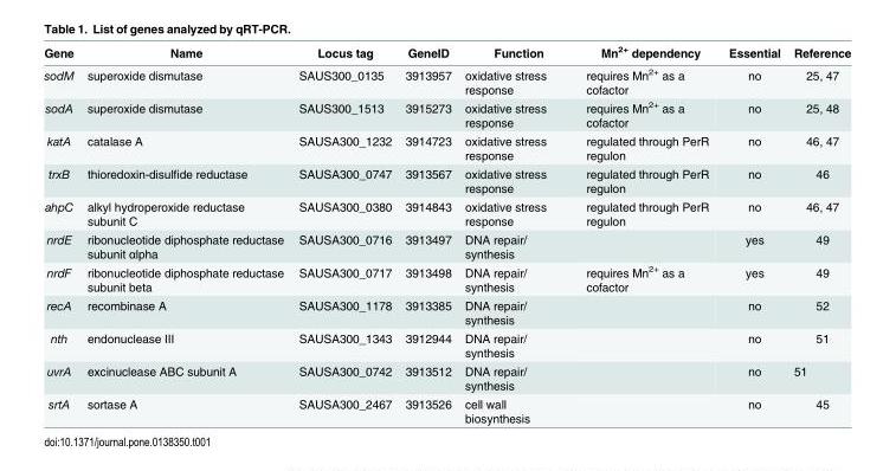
<table><thead><tr><td>Gene</td><td>Name</td><td>Locus tag</td><td>GeneID</td><td>Function</td><td>Mn<sup>2+</sup> dependency</td><td>Essential</td><td>Reference</td></tr></thead><tbody><tr><td>sodM</td><td>superoxide dismutase</td><td>SAUS300_0135</td><td>3913957</td><td>oxidative stress response</td><td>requires Mn<sup>2+</sup> as a cofactor</td><td>no</td><td>25, 47</td></tr><tr><td>sodA</td><td>superoxide dismutase</td><td>SAUS300_1513</td><td>3915273</td><td>oxidative stress response</td><td>requires Mn<sup>2+</sup> as a cofactor</td><td>no</td><td>25, 48</td></tr><tr><td>katA</td><td>catalase A</td><td>SAUSA300_1232</td><td>3914723</td><td>oxidative stress response</td><td>regulated through PerR regulon</td><td>no</td><td>46, 47</td></tr><tr><td>trxB</td><td>thioredoxin-disulfide reductase</td><td>SAUSA300_0747</td><td>3913567</td><td>oxidative stress response</td><td>regulated through PerR regulon</td><td>no</td><td>46</td></tr><tr><td>ahpC</td><td>alkyl hydroperoxide reductase subunit C</td><td>SAUSA300_0380</td><td>3914843</td><td>oxidative stress response</td><td>regulated through PerR regulon</td><td>no</td><td>46, 47</td></tr><tr><td>nrdE</td><td>ribonucleotide diphosphate reductase subunit αlpha</td><td>SAUSA300_0716</td><td>3913497</td><td>DNA repair/ synthesis</td><td></td><td>yes</td><td>49</td></tr><tr><td>nrdF</td><td>ribonucleotide diphosphate reductase subunit beta</td><td>SAUSA300_0717</td><td>3913498</td><td>DNA repair/ synthesis</td><td>requires Mn<sup>2+</sup> as a cofactor</td><td>yes</td><td>49</td></tr><tr><td>recA</td><td>recombinase A</td><td>SAUSA300_1178</td><td>3913385</td><td>DNA repair/ synthesis</td><td></td><td>no</td><td>52</td></tr><tr><td>nth</td><td>endonuclease III</td><td>SAUSA300_1343</td><td>3912944</td><td>DNA repair/ synthesis</td><td></td><td>no</td><td>51</td></tr><tr><td>uvrA</td><td>excinuclease ABC subunit A</td><td>SAUSA300_0742</td><td>3913512</td><td>DNA repair/ synthesis</td><td></td><td>no</td><td>51</td></tr><tr><td>srtA</td><td>sortase A</td><td>SAUSA300_2467</td><td>3913526</td><td>cell wall biosynthesis</td><td></td><td>no</td><td>45</td></tr></tbody></table>